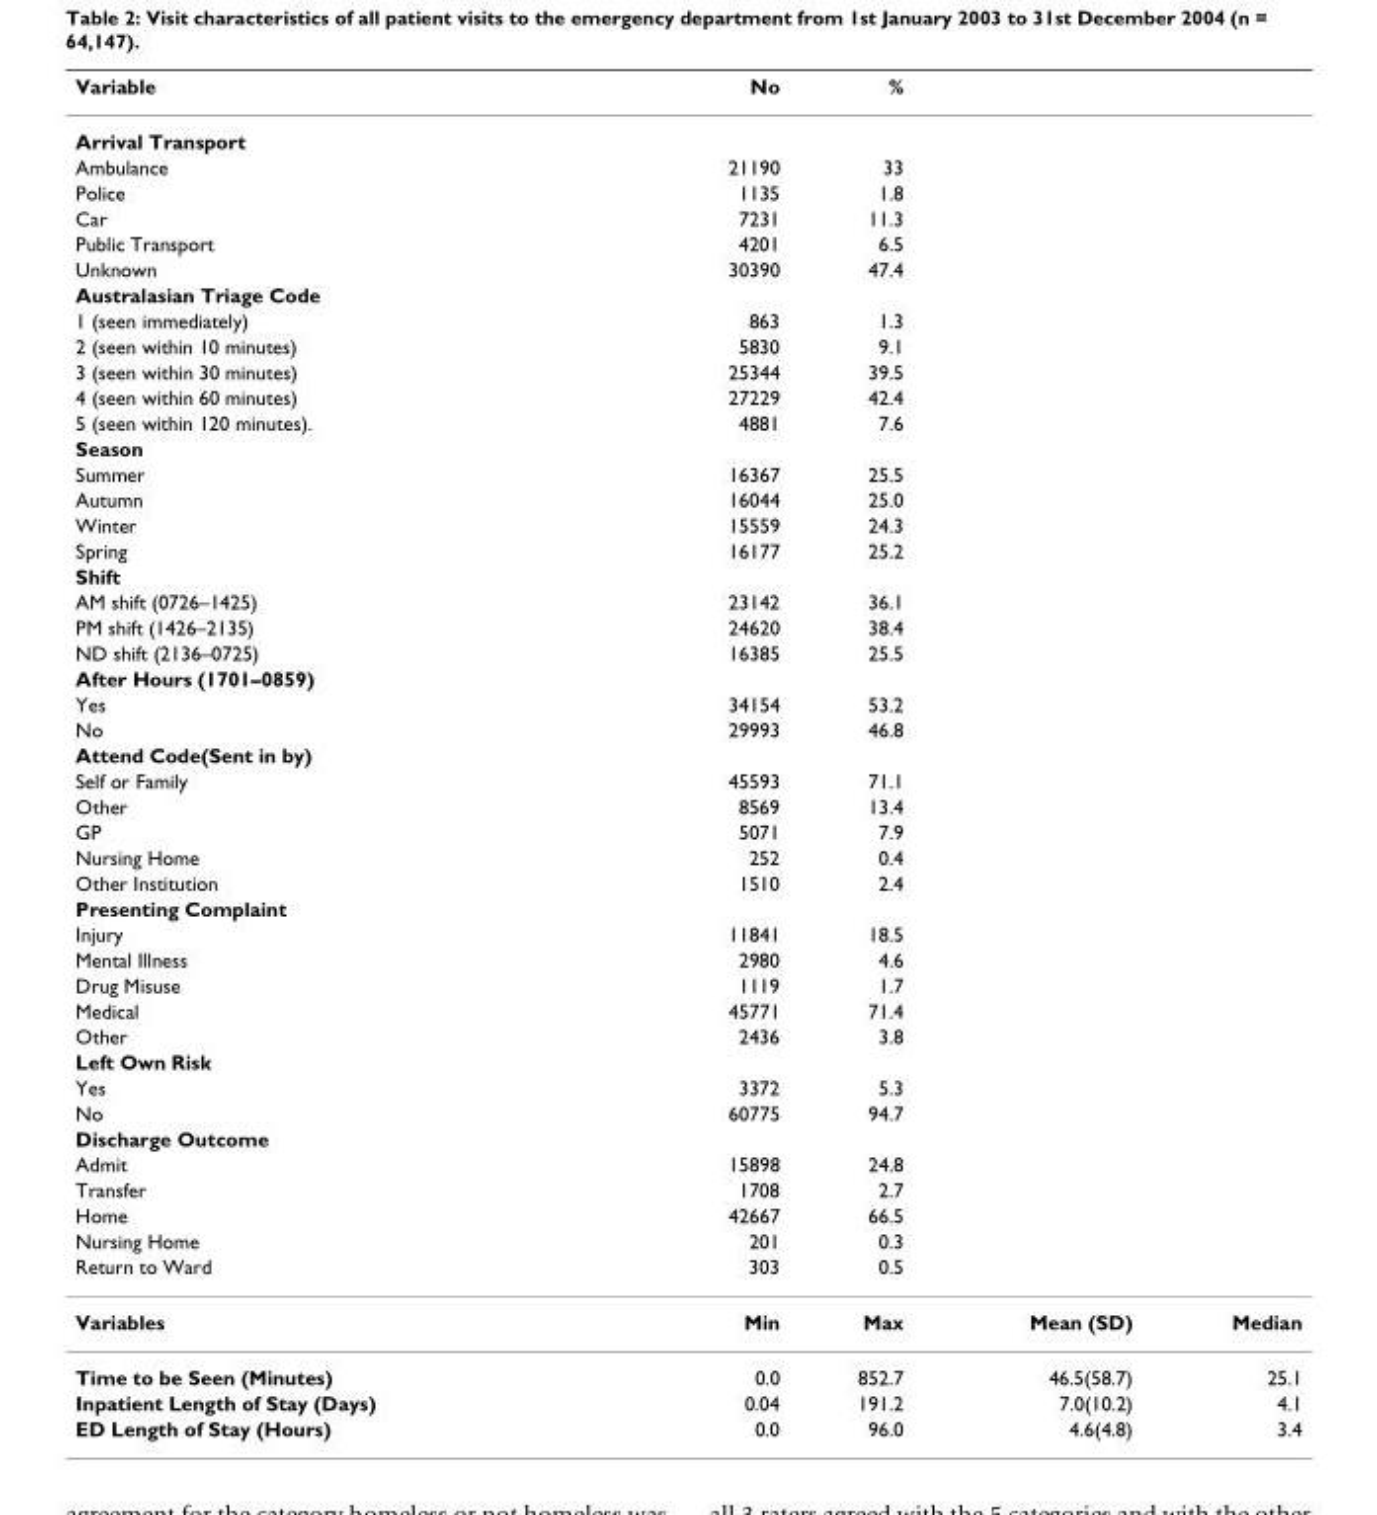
<table><thead><tr><td>Variable</td><td>No</td><td>%</td><td></td><td></td></tr></thead><tbody><tr><td colspan="5">Arrival Transport</td></tr><tr><td>Ambulance</td><td>21190</td><td>33</td><td></td><td></td></tr><tr><td>Police</td><td>1135</td><td>1.8</td><td></td><td></td></tr><tr><td>Car</td><td>7231</td><td>11.3</td><td></td><td></td></tr><tr><td>Public Transport</td><td>4201</td><td>6.5</td><td></td><td></td></tr><tr><td>Unknown</td><td>30390</td><td>47.4</td><td></td><td></td></tr><tr><td colspan="5">Australasian Triage Code</td></tr><tr><td>1 (seen immediately)</td><td>863</td><td>1.3</td><td></td><td></td></tr><tr><td>2 (seen within 10 minutes)</td><td>5830</td><td>9.1</td><td></td><td></td></tr><tr><td>3 (seen within 30 minutes)</td><td>25344</td><td>39.5</td><td></td><td></td></tr><tr><td>4 (seen within 60 minutes)</td><td>27229</td><td>42.4</td><td></td><td></td></tr><tr><td>5 (seen within 120 minutes).</td><td>4881</td><td>7.6</td><td></td><td></td></tr><tr><td colspan="5">Season</td></tr><tr><td>Summer</td><td>16367</td><td>25.5</td><td></td><td></td></tr><tr><td>Autumn</td><td>16044</td><td>25.0</td><td></td><td></td></tr><tr><td>Winter</td><td>15559</td><td>24.3</td><td></td><td></td></tr><tr><td>Spring</td><td>16177</td><td>25.2</td><td></td><td></td></tr><tr><td colspan="5">Shift</td></tr><tr><td>AM shift (0726–1425)</td><td>23142</td><td>36.1</td><td></td><td></td></tr><tr><td>PM shift (1426–2135)</td><td>24620</td><td>38.4</td><td></td><td></td></tr><tr><td>ND shift (2136–0725)</td><td>16385</td><td>25.5</td><td></td><td></td></tr><tr><td colspan="5">After Hours (1701–0859)</td></tr><tr><td>Yes</td><td>34154</td><td>53.2</td><td></td><td></td></tr><tr><td>No</td><td>29993</td><td>46.8</td><td></td><td></td></tr><tr><td colspan="5">Attend Code(Sent in by)</td></tr><tr><td>Self or Family</td><td>45593</td><td>71.1</td><td></td><td></td></tr><tr><td>Other</td><td>8569</td><td>13.4</td><td></td><td></td></tr><tr><td>GP</td><td>5071</td><td>7.9</td><td></td><td></td></tr><tr><td>Nursing Home</td><td>252</td><td>0.4</td><td></td><td></td></tr><tr><td>Other Institution</td><td>1510</td><td>2.4</td><td></td><td></td></tr><tr><td colspan="5">Presenting Complaint</td></tr><tr><td>Injury</td><td>11841</td><td>18.5</td><td></td><td></td></tr><tr><td>Mental Illness</td><td>2980</td><td>4.6</td><td></td><td></td></tr><tr><td>Drug Misuse</td><td>1119</td><td>1.7</td><td></td><td></td></tr><tr><td>Medical</td><td>45771</td><td>71.4</td><td></td><td></td></tr><tr><td>Other</td><td>2436</td><td>3.8</td><td></td><td></td></tr><tr><td colspan="5">Left Own Risk</td></tr><tr><td>Yes</td><td>3372</td><td>5.3</td><td></td><td></td></tr><tr><td>No</td><td>60775</td><td>94.7</td><td></td><td></td></tr><tr><td colspan="5">Discharge Outcome</td></tr><tr><td>Admit</td><td>15898</td><td>24.8</td><td></td><td></td></tr><tr><td>Transfer</td><td>1708</td><td>2.7</td><td></td><td></td></tr><tr><td>Home</td><td>42667</td><td>66.5</td><td></td><td></td></tr><tr><td>Nursing Home</td><td>201</td><td>0.3</td><td></td><td></td></tr><tr><td>Return to Ward</td><td>303</td><td>0.5</td><td></td><td></td></tr><tr><td>Variables</td><td>Min</td><td>Max</td><td>Mean (SD)</td><td>Median</td></tr><tr><td>Time to be Seen (Minutes)</td><td>0.0</td><td>852.7</td><td>46.5(58.7)</td><td>25.1</td></tr><tr><td>Inpatient Length of Stay (Days)</td><td>0.04</td><td>191.2</td><td>7.0(10.2)</td><td>4.1</td></tr><tr><td>ED Length of Stay (Hours)</td><td>0.0</td><td>96.0</td><td>4.6(4.8)</td><td>3.4</td></tr></tbody></table>